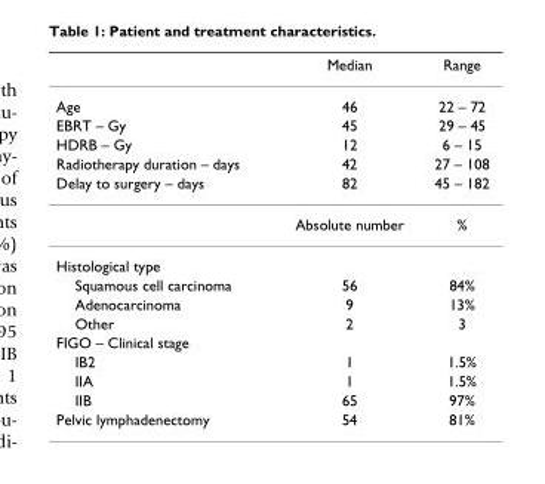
<table><thead><tr><td></td><td>Median</td><td>Range</td></tr></thead><tbody><tr><td>Age</td><td>46</td><td>22 – 72</td></tr><tr><td>EBRT – Gy</td><td>45</td><td>29 – 45</td></tr><tr><td>HDRB – Gy</td><td>12</td><td>6 – 15</td></tr><tr><td>Radiotherapy duration – days</td><td>42</td><td>27 – 108</td></tr><tr><td rowspan="2">Delay to surgery – days</td><td>82</td><td>45 – 182</td></tr><tr><td>Absolute number</td><td>%</td></tr><tr><td colspan="3">Histological type</td></tr><tr><td>Squamous cell carcinoma</td><td>56</td><td>84%</td></tr><tr><td>Adenocarcinoma</td><td>9</td><td>13%</td></tr><tr><td>Other</td><td>2</td><td>3</td></tr><tr><td colspan="3">FIGO – Clinical stage</td></tr><tr><td>IB2</td><td>1</td><td>1.5%</td></tr><tr><td>IIA</td><td>1</td><td>1.5%</td></tr><tr><td>IIB</td><td>65</td><td>97%</td></tr><tr><td>Pelvic lymphadenectomy</td><td>54</td><td>81%</td></tr></tbody></table>